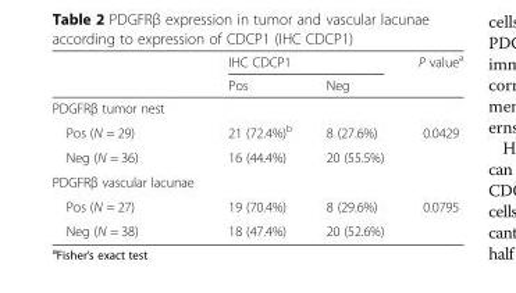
<table><thead><tr><td rowspan="2"></td><td colspan="2">IHC CDCP1</td><td rowspan="2">P value<sup>a</sup></td></tr><tr><td>Pos</td><td>Neg</td></tr></thead><tbody><tr><td colspan="4">PDGFRβ tumor nest</td></tr><tr><td>Pos (N = 29)</td><td>21 (72.4%)<sup>b</sup></td><td>8 (27.6%)</td><td>0.0429</td></tr><tr><td>Neg (N = 36)</td><td>16 (44.4%)</td><td>20 (55.5%)</td><td></td></tr><tr><td colspan="4">PDGFRβ vascular lacunae</td></tr><tr><td>Pos (N = 27)</td><td>19 (70.4%)</td><td>8 (29.6%)</td><td>0.0795</td></tr><tr><td>Neg (N = 38)</td><td>18 (47.4%)</td><td>20 (52.6%)</td><td></td></tr></tbody></table>